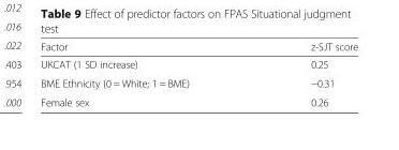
<table><thead><tr><td>Factor</td><td>z-SJT score</td></tr></thead><tbody><tr><td>UKCAT (1 SD increase)</td><td>0.25</td></tr><tr><td>BME Ethnicity (0 = White; 1 = BME)</td><td>−0.31</td></tr><tr><td>Female sex</td><td>0.26</td></tr></tbody></table>